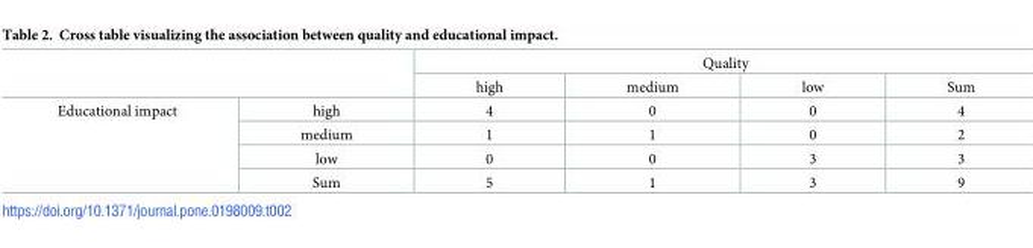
<table><thead><tr><td rowspan="2"></td><td rowspan="2"></td><td colspan="4">Quality</td></tr><tr><td>high</td><td>medium</td><td>low</td><td>Sum</td></tr></thead><tbody><tr><td rowspan="4">Educational impact</td><td>high</td><td>4</td><td>0</td><td>0</td><td>4</td></tr><tr><td>medium</td><td>1</td><td>1</td><td>0</td><td>2</td></tr><tr><td>low</td><td>0</td><td>0</td><td>3</td><td>3</td></tr><tr><td>Sum</td><td>5</td><td>1</td><td>3</td><td>9</td></tr></tbody></table>